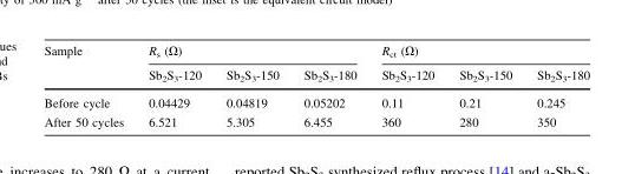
<table><thead><tr><td rowspan="2">Sample</td><td colspan="3">R<sub>s</sub> (Ω)</td><td colspan="3">R<sub>ct</sub> (Ω)</td></tr><tr><td>Sb<sub>2</sub>S<sub>3</sub>-120</td><td>Sb<sub>2</sub>S<sub>3</sub>-150</td><td>Sb<sub>2</sub>S<sub>3</sub>-180</td><td>Sb<sub>2</sub>S<sub>3</sub>-120</td><td>Sb<sub>2</sub>S<sub>3</sub>-150</td><td>Sb<sub>2</sub>S<sub>3</sub>-180</td></tr></thead><tbody><tr><td>Before cycle</td><td>0.04429</td><td>0.04819</td><td>0.05202</td><td>0.11</td><td>0.21</td><td>0.245</td></tr><tr><td>After 50 cycles</td><td>6.521</td><td>5.305</td><td>6.455</td><td>360</td><td>280</td><td>350</td></tr></tbody></table>